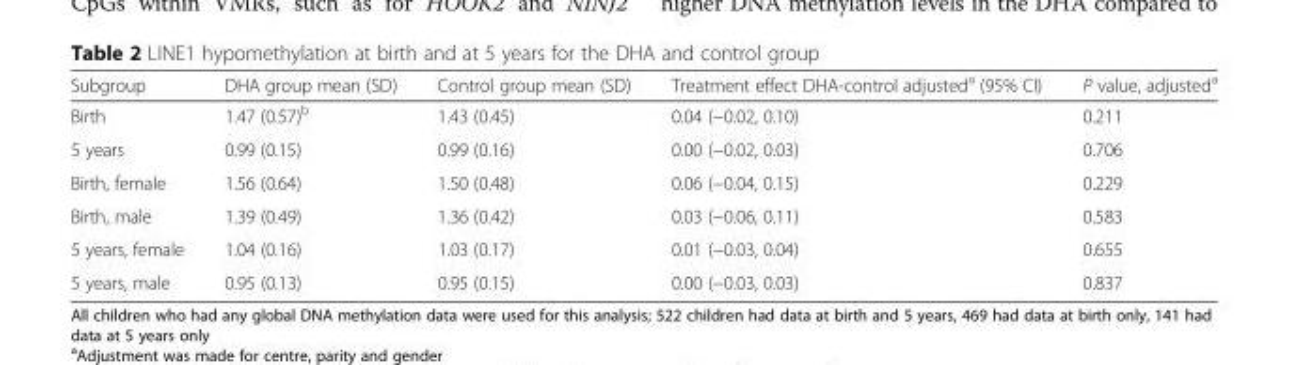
<table><thead><tr><td>Subgroup</td><td>DHA group mean (SD)</td><td>Control group mean (SD)</td><td>Treatment effect DHA-control adjusted<sup>a</sup> (95% CI)</td><td>P value, adjusted<sup>a</sup></td></tr></thead><tbody><tr><td>Birth</td><td>1.47 (0.57)<sup>b</sup></td><td>1.43 (0.45)</td><td>0.04 (−0.02, 0.10)</td><td>0.211</td></tr><tr><td>5 years</td><td>0.99 (0.15)</td><td>0.99 (0.16)</td><td>0.00 (−0.02, 0.03)</td><td>0.706</td></tr><tr><td>Birth, female</td><td>1.56 (0.64)</td><td>1.50 (0.48)</td><td>0.06 (−0.04, 0.15)</td><td>0.229</td></tr><tr><td>Birth, male</td><td>1.39 (0.49)</td><td>1.36 (0.42)</td><td>0.03 (−0.06, 0.11)</td><td>0.583</td></tr><tr><td>5 years, female</td><td>1.04 (0.16)</td><td>1.03 (0.17)</td><td>0.01 (−0.03, 0.04)</td><td>0.655</td></tr><tr><td>5 years, male</td><td>0.95 (0.13)</td><td>0.95 (0.15)</td><td>0.00 (−0.03, 0.03)</td><td>0.837</td></tr></tbody></table>